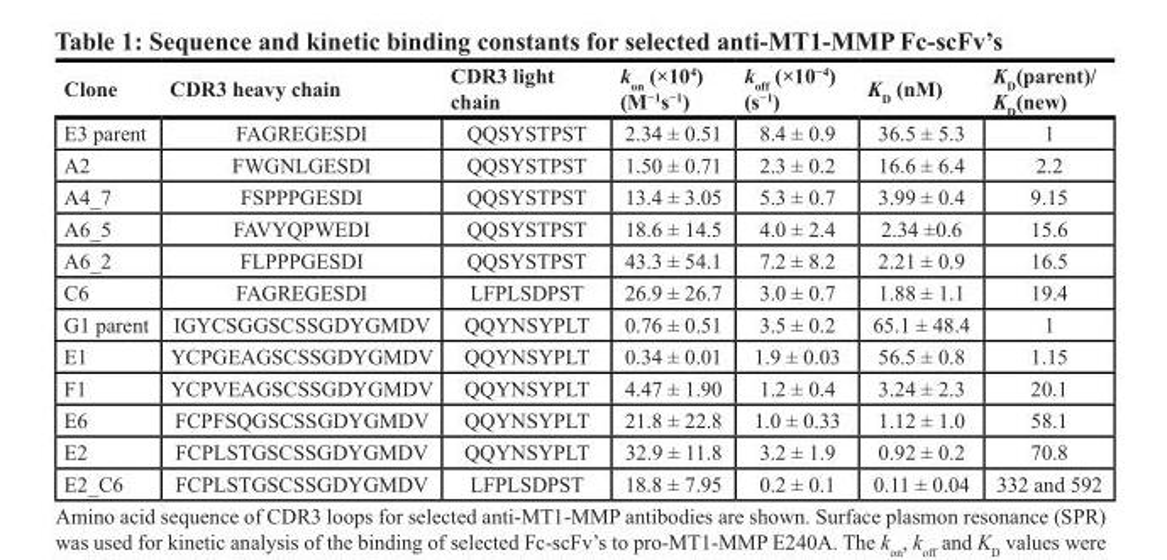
<table><thead><tr><td>Clone</td><td>CDR3 heavy chain</td><td>CDR3 light chain</td><td>k<sub>on</sub> (×10<sup>4</sup>) (M<sup>−1</sup>s<sup>−1</sup>)</td><td>k<sub>off</sub> (×10<sup>−4</sup>) (s<sup>−1</sup>)</td><td>K<sub>D</sub> (nM)</td><td>K<sub>D</sub>(parent)/ K<sub>D</sub>(new)</td></tr></thead><tbody><tr><td>E3 parent</td><td>FAGREGESDI</td><td>QQSYSTPST</td><td>2.34 ± 0.51</td><td>8.4 ± 0.9</td><td>36.5 ± 5.3</td><td>1</td></tr><tr><td>A2</td><td>FWGNLGESDI</td><td>QQSYSTPST</td><td>1.50 ± 0.71</td><td>2.3 ± 0.2</td><td>16.6 ± 6.4</td><td>2.2</td></tr><tr><td>A4_7</td><td>FSPPPGESDI</td><td>QQSYSTPST</td><td>13.4 ± 3.05</td><td>5.3 ± 0.7</td><td>3.99 ± 0.4</td><td>9.15</td></tr><tr><td>A6_5</td><td>FAVYQPWEDI</td><td>QQSYSTPST</td><td>18.6 ± 14.5</td><td>4.0 ± 2.4</td><td>2.34 ±0.6</td><td>15.6</td></tr><tr><td>A6_2</td><td>FLPPPGESDI</td><td>QQSYSTPST</td><td>43.3 ± 54.1</td><td>7.2 ± 8.2</td><td>2.21 ± 0.9</td><td>16.5</td></tr><tr><td>C6</td><td>FAGREGESDI</td><td>LFPLSDPST</td><td>26.9 ± 26.7</td><td>3.0 ± 0.7</td><td>1.88 ± 1.1</td><td>19.4</td></tr><tr><td>G1 parent</td><td>IGYCSGGSCSSGDYGMDV</td><td>QQYNSYPLT</td><td>0.76 ± 0.51</td><td>3.5 ± 0.2</td><td>65.1 ± 48.4</td><td>1</td></tr><tr><td>E1</td><td>YCPGEAGSCSSGDYGMDV</td><td>QQYNSYPLT</td><td>0.34 ± 0.01</td><td>1.9 ± 0.03</td><td>56.5 ± 0.8</td><td>1.15</td></tr><tr><td>F1</td><td>YCPVEAGSCSSGDYGMDV</td><td>QQYNSYPLT</td><td>4.47 ± 1.90</td><td>1.2 ± 0.4</td><td>3.24 ± 2.3</td><td>20.1</td></tr><tr><td>E6</td><td>FCPFSQGSCSSGDYGMDV</td><td>QQYNSYPLT</td><td>21.8 ± 22.8</td><td>1.0 ± 0.33</td><td>1.12 ± 1.0</td><td>58.1</td></tr><tr><td>E2</td><td>FCPLSTGSCSSGDYGMDV</td><td>QQYNSYPLT</td><td>32.9 ± 11.8</td><td>3.2 ± 1.9</td><td>0.92 ± 0.2</td><td>70.8</td></tr><tr><td>E2_C6</td><td>FCPLSTGSCSSGDYGMDV</td><td>LFPLSDPST</td><td>18.8 ± 7.95</td><td>0.2 ± 0.1</td><td>0.11 ± 0.04</td><td>332 and 592</td></tr></tbody></table>